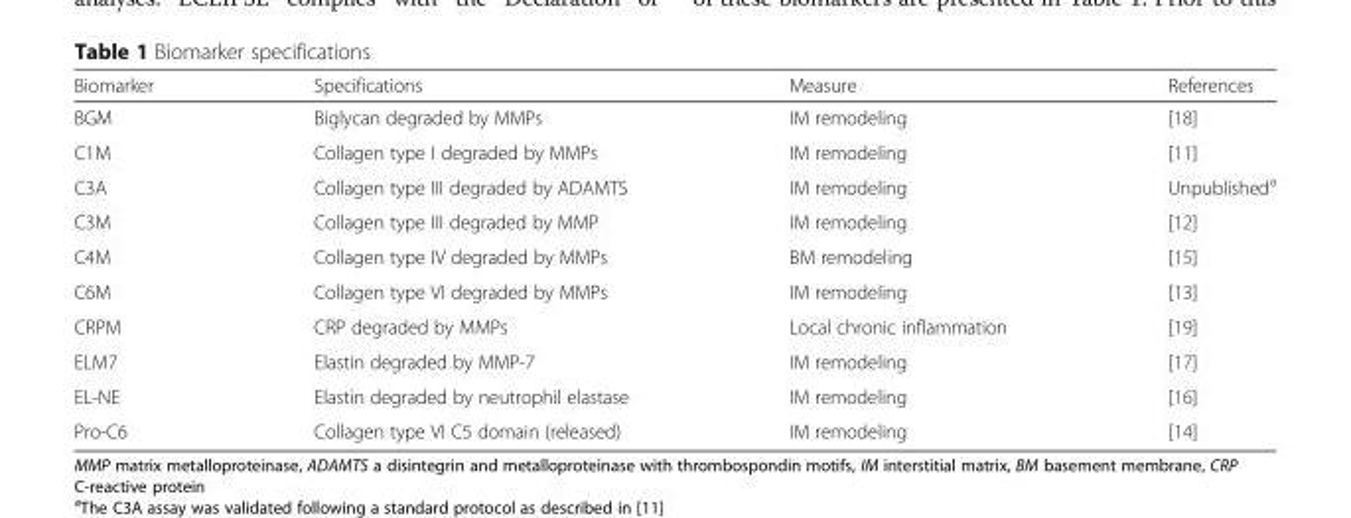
<table><thead><tr><td>Biomarker</td><td>Specifications</td><td>Measure</td><td>References</td></tr></thead><tbody><tr><td>BGM</td><td>Biglycan degraded by MMPs</td><td>IM remodeling</td><td>[18]</td></tr><tr><td>C1M</td><td>Collagen type I degraded by MMPs</td><td>IM remodeling</td><td>[11]</td></tr><tr><td>C3A</td><td>Collagen type III degraded by ADAMTS</td><td>IM remodeling</td><td>Unpublished<sup>a</sup></td></tr><tr><td>C3M</td><td>Collagen type III degraded by MMP</td><td>IM remodeling</td><td>[12]</td></tr><tr><td>C4M</td><td>Collagen type IV degraded by MMPs</td><td>BM remodeling</td><td>[15]</td></tr><tr><td>C6M</td><td>Collagen type VI degraded by MMPs</td><td>IM remodeling</td><td>[13]</td></tr><tr><td>CRPM</td><td>CRP degraded by MMPs</td><td>Local chronic inflammation</td><td>[19]</td></tr><tr><td>ELM7</td><td>Elastin degraded by MMP-7</td><td>IM remodeling</td><td>[17]</td></tr><tr><td>EL-NE</td><td>Elastin degraded by neutrophil elastase</td><td>IM remodeling</td><td>[16]</td></tr><tr><td>Pro-C6</td><td>Collagen type VI C5 domain (released)</td><td>IM remodeling</td><td>[14]</td></tr></tbody></table>